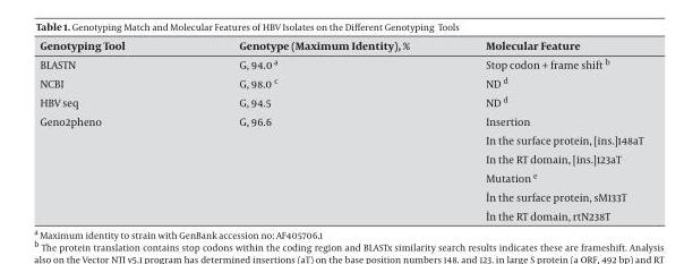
<table><thead><tr><td>Genotyping Tool</td><td>Genotype (Maximum Identity), %</td><td>Molecular Feature</td></tr></thead><tbody><tr><td>BLASTN</td><td>G, 94.0 a</td><td>Stop codon + frame shift b</td></tr><tr><td>NCBI</td><td>G, 98.0 c</td><td>ND d</td></tr><tr><td>HBV seq</td><td>G, 94.5</td><td>ND d</td></tr><tr><td rowspan="6">Geno2pheno</td><td>G, 96.6</td><td>Insertion</td></tr><tr><td></td><td>In the surface protein, [ins.]148aT</td></tr><tr><td></td><td>In the RT domain, [ins.]123aT</td></tr><tr><td></td><td>Mutation e</td></tr><tr><td></td><td>İn the surface protein, sM133T</td></tr><tr><td></td><td>İn the RT domain, rtN238T</td></tr></tbody></table>